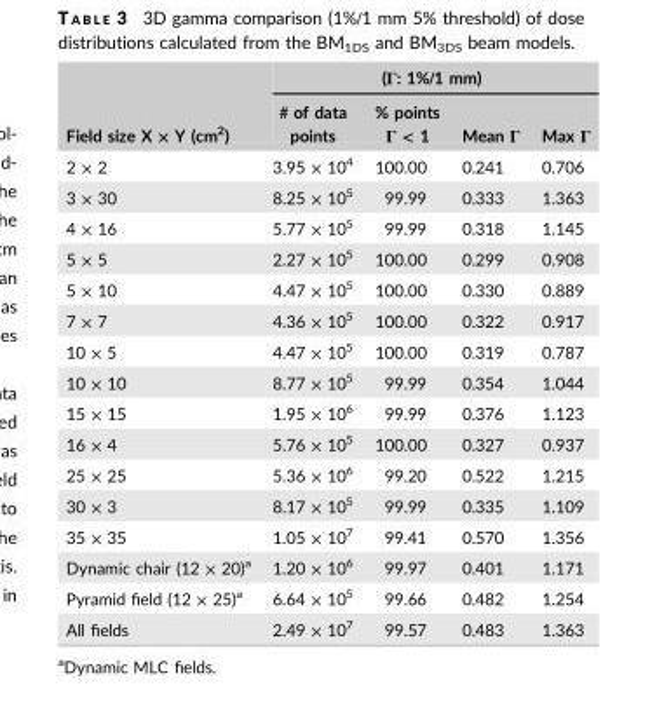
<table><thead><tr><td rowspan="2">Field size X × Y (cm<sup>2</sup>)</td><td colspan="4">(Γ: 1%/1 mm)</td></tr><tr><td># of data points</td><td>% points Γ &lt; 1</td><td>Mean Γ</td><td>Max Γ</td></tr></thead><tbody><tr><td>2 × 2</td><td>3.95 × 10<sup>4</sup></td><td>100.00</td><td>0.241</td><td>0.706</td></tr><tr><td>3 × 30</td><td>8.25 × 10<sup>5</sup></td><td>99.99</td><td>0.333</td><td>1.363</td></tr><tr><td>4 × 16</td><td>5.77 × 10<sup>5</sup></td><td>99.99</td><td>0.318</td><td>1.145</td></tr><tr><td>5 × 5</td><td>2.27 × 10<sup>5</sup></td><td>100.00</td><td>0.299</td><td>0.908</td></tr><tr><td>5 × 10</td><td>4.47 × 10<sup>5</sup></td><td>100.00</td><td>0.330</td><td>0.889</td></tr><tr><td>7 × 7</td><td>4.36 × 10<sup>5</sup></td><td>100.00</td><td>0.322</td><td>0.917</td></tr><tr><td>10 × 5</td><td>4.47 × 10<sup>5</sup></td><td>100.00</td><td>0.319</td><td>0.787</td></tr><tr><td>10 × 10</td><td>8.77 × 10<sup>5</sup></td><td>99.99</td><td>0.354</td><td>1.044</td></tr><tr><td>15 × 15</td><td>1.95 × 10<sup>6</sup></td><td>99.99</td><td>0.376</td><td>1.123</td></tr><tr><td>16 × 4</td><td>5.76 × 10<sup>5</sup></td><td>100.00</td><td>0.327</td><td>0.937</td></tr><tr><td>25 × 25</td><td>5.36 × 10<sup>6</sup></td><td>99.20</td><td>0.522</td><td>1.215</td></tr><tr><td>30 × 3</td><td>8.17 × 10<sup>5</sup></td><td>99.99</td><td>0.335</td><td>1.109</td></tr><tr><td>35 × 35</td><td>1.05 × 10<sup>7</sup></td><td>99.41</td><td>0.570</td><td>1.356</td></tr><tr><td>Dynamic chair (12 × 20)<sup>a</sup></td><td>1.20 × 10<sup>6</sup></td><td>99.97</td><td>0.401</td><td>1.171</td></tr><tr><td>Pyramid field (12 × 25)<sup>a</sup></td><td>6.64 × 10<sup>5</sup></td><td>99.66</td><td>0.482</td><td>1.254</td></tr><tr><td>All fields</td><td>2.49 × 10<sup>7</sup></td><td>99.57</td><td>0.483</td><td>1.363</td></tr></tbody></table>